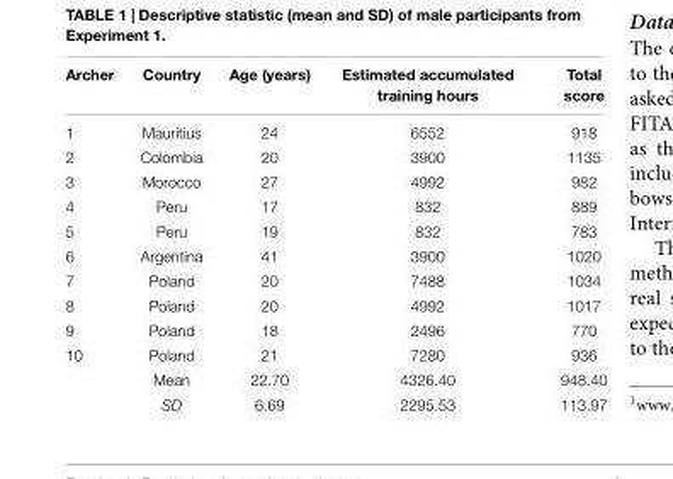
<table><thead><tr><td>Archer</td><td>Country</td><td>Age (years)</td><td>Estimated accumulated training hours</td><td>Total score</td></tr></thead><tbody><tr><td>1</td><td>Mauritius</td><td>24</td><td>6552</td><td>918</td></tr><tr><td>2</td><td>Colombia</td><td>20</td><td>3900</td><td>1135</td></tr><tr><td>3</td><td>Morocco</td><td>27</td><td>4992</td><td>982</td></tr><tr><td>4</td><td>Peru</td><td>17</td><td>832</td><td>889</td></tr><tr><td>5</td><td>Peru</td><td>19</td><td>832</td><td>783</td></tr><tr><td>6</td><td>Argentina</td><td>41</td><td>3900</td><td>1020</td></tr><tr><td>7</td><td>Poland</td><td>20</td><td>7488</td><td>1034</td></tr><tr><td>8</td><td>Poland</td><td>20</td><td>4992</td><td>1017</td></tr><tr><td>9</td><td>Poland</td><td>18</td><td>2496</td><td>770</td></tr><tr><td rowspan="3">10</td><td>Poland</td><td>21</td><td>7280</td><td>936</td></tr><tr><td>Mean</td><td>22.70</td><td>4326.40</td><td>948.40</td></tr><tr><td>SD</td><td>6.69</td><td>2295.53</td><td>113.97</td></tr></tbody></table>